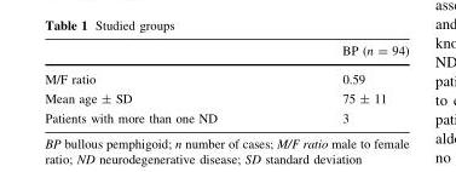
<table><thead><tr><td></td><td>BP (n = 94)</td></tr></thead><tbody><tr><td>M/F ratio</td><td>0.59</td></tr><tr><td>Mean age ± SD</td><td>75 ± 11</td></tr><tr><td>Patients with more than one ND</td><td>3</td></tr></tbody></table>